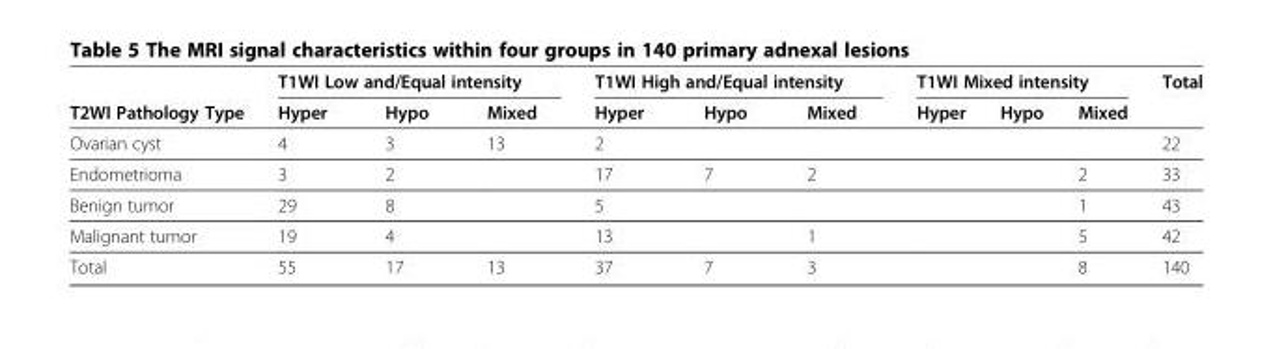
<table><thead><tr><td rowspan="2">T2WI Pathology Type</td><td colspan="3">T1WI Low and/Equal intensity</td><td colspan="3">T1WI High and/Equal intensity</td><td colspan="3">T1WI Mixed intensity</td><td rowspan="2">Total</td></tr><tr><td>Hyper</td><td>Hypo</td><td>Mixed</td><td>Hyper</td><td>Hypo</td><td>Mixed</td><td>Hyper</td><td>Hypo</td><td>Mixed</td></tr></thead><tbody><tr><td>Ovarian cyst</td><td>4</td><td>3</td><td>13</td><td>2</td><td></td><td></td><td></td><td></td><td></td><td>22</td></tr><tr><td>Endometrioma</td><td>3</td><td>2</td><td></td><td>17</td><td>7</td><td>2</td><td></td><td></td><td>2</td><td>33</td></tr><tr><td>Benign tumor</td><td>29</td><td>8</td><td></td><td>5</td><td></td><td></td><td></td><td></td><td>1</td><td>43</td></tr><tr><td>Malignant tumor</td><td>19</td><td>4</td><td></td><td>13</td><td></td><td>1</td><td></td><td></td><td>5</td><td>42</td></tr><tr><td>Total</td><td>55</td><td>17</td><td>13</td><td>37</td><td>7</td><td>3</td><td></td><td></td><td>8</td><td>140</td></tr></tbody></table>